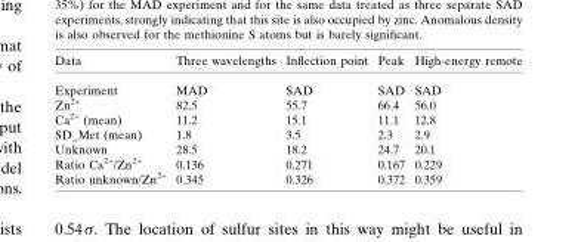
<table><thead><tr><td>Data</td><td>Three wavelengths</td><td>Inflection point</td><td>Peak</td><td>High-energy remote</td></tr></thead><tbody><tr><td>Experiment</td><td>MAD</td><td>SAD</td><td>SAD</td><td>SAD</td></tr><tr><td>Zn<sup>2+</sup></td><td>82.5</td><td>55.7</td><td>66.4</td><td>56.0</td></tr><tr><td>Ca<sup>2+</sup> (mean)</td><td>11.2</td><td>15.1</td><td>11.1</td><td>12.8</td></tr><tr><td>SD_Met (mean)</td><td>1.8</td><td>3.5</td><td>2.3</td><td>2.9</td></tr><tr><td>Unknown</td><td>28.5</td><td>18.2</td><td>24.7</td><td>20.1</td></tr><tr><td>Ratio Ca<sup>2+</sup>/Zn<sup>2+</sup></td><td>0.136</td><td>0.271</td><td>0.167</td><td>0.229</td></tr><tr><td>Ratio unknown/Zn<sup>2+</sup></td><td>0.345</td><td>0.326</td><td>0.372</td><td>0.359</td></tr></tbody></table>